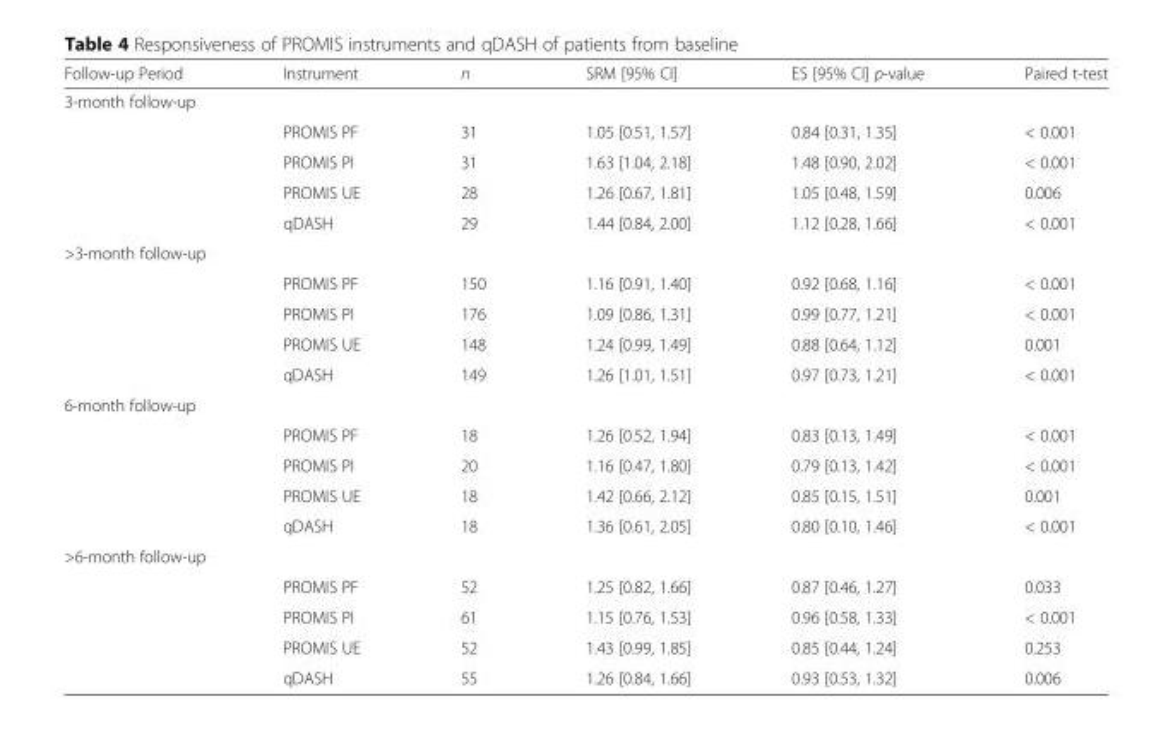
<table><thead><tr><td>Follow-up Period</td><td>Instrument</td><td>n</td><td>SRM [95% CI]</td><td>ES [95% CI] p-value</td><td>Paired t-test</td></tr></thead><tbody><tr><td colspan="6">3-month follow-up</td></tr><tr><td rowspan="4"></td><td>PROMIS PF</td><td>31</td><td>1.05 [0.51, 1.57]</td><td>0.84 [0.31, 1.35]</td><td>&lt; 0.001</td></tr><tr><td>PROMIS PI</td><td>31</td><td>1.63 [1.04, 2.18]</td><td>1.48 [0.90, 2.02]</td><td>&lt; 0.001</td></tr><tr><td>PROMIS UE</td><td>28</td><td>1.26 [0.67, 1.81]</td><td>1.05 [0.48, 1.59]</td><td>0.006</td></tr><tr><td>qDASH</td><td>29</td><td>1.44 [0.84, 2.00]</td><td>1.12 [0.28, 1.66]</td><td>&lt; 0.001</td></tr><tr><td colspan="6">&gt;3-month follow-up</td></tr><tr><td rowspan="4"></td><td>PROMIS PF</td><td>150</td><td>1.16 [0.91, 1.40]</td><td>0.92 [0.68, 1.16]</td><td>&lt; 0.001</td></tr><tr><td>PROMIS PI</td><td>176</td><td>1.09 [0.86, 1.31]</td><td>0.99 [0.77, 1.21]</td><td>&lt; 0.001</td></tr><tr><td>PROMIS UE</td><td>148</td><td>1.24 [0.99, 1.49]</td><td>0.88 [0.64, 1.12]</td><td>0.001</td></tr><tr><td>qDASH</td><td>149</td><td>1.26 [1.01, 1.51]</td><td>0.97 [0.73, 1.21]</td><td>&lt; 0.001</td></tr><tr><td colspan="6">6-month follow-up</td></tr><tr><td rowspan="4"></td><td>PROMIS PF</td><td>18</td><td>1.26 [0.52, 1.94]</td><td>0.83 [0.13, 1.49]</td><td>&lt; 0.001</td></tr><tr><td>PROMIS PI</td><td>20</td><td>1.16 [0.47, 1.80]</td><td>0.79 [0.13, 1.42]</td><td>&lt; 0.001</td></tr><tr><td>PROMIS UE</td><td>18</td><td>1.42 [0.66, 2.12]</td><td>0.85 [0.15, 1.51]</td><td>0.001</td></tr><tr><td>qDASH</td><td>18</td><td>1.36 [0.61, 2.05]</td><td>0.80 [0.10, 1.46]</td><td>&lt; 0.001</td></tr><tr><td colspan="6">&gt;6-month follow-up</td></tr><tr><td rowspan="4"></td><td>PROMIS PF</td><td>52</td><td>1.25 [0.82, 1.66]</td><td>0.87 [0.46, 1.27]</td><td>0.033</td></tr><tr><td>PROMIS PI</td><td>61</td><td>1.15 [0.76, 1.53]</td><td>0.96 [0.58, 1.33]</td><td>&lt; 0.001</td></tr><tr><td>PROMIS UE</td><td>52</td><td>1.43 [0.99, 1.85]</td><td>0.85 [0.44, 1.24]</td><td>0.253</td></tr><tr><td>qDASH</td><td>55</td><td>1.26 [0.84, 1.66]</td><td>0.93 [0.53, 1.32]</td><td>0.006</td></tr></tbody></table>